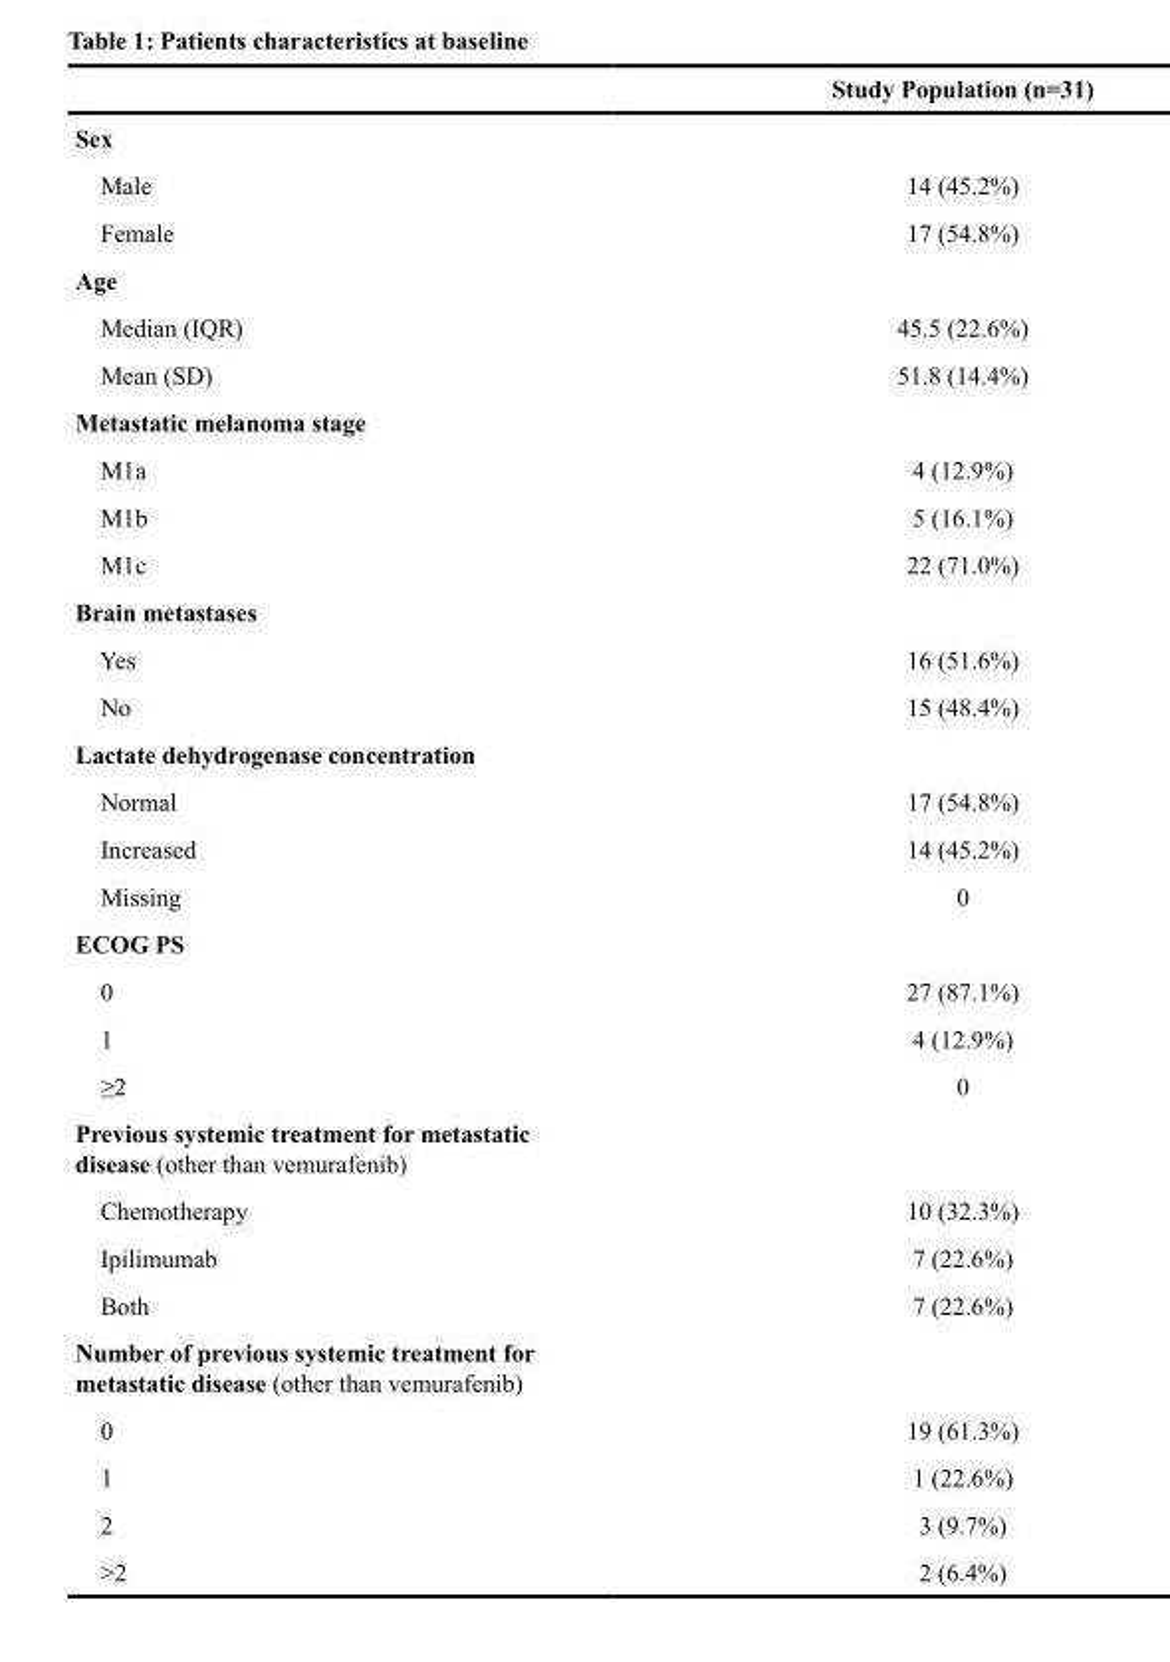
<table><thead><tr><td></td><td>Study Population (n=31)</td></tr></thead><tbody><tr><td colspan="2">Sex</td></tr><tr><td>Male</td><td>14 (45.2%)</td></tr><tr><td>Female</td><td>17 (54.8%)</td></tr><tr><td colspan="2">Age</td></tr><tr><td>Median (IQR)</td><td>45.5 (22.6%)</td></tr><tr><td>Mean (SD)</td><td>51.8 (14.4%)</td></tr><tr><td colspan="2">Metastatic melanoma stage</td></tr><tr><td>M1a</td><td>4 (12.9%)</td></tr><tr><td>M1b</td><td>5 (16.1%)</td></tr><tr><td>M1c</td><td>22 (71.0%)</td></tr><tr><td colspan="2">Brain metastases</td></tr><tr><td>Yes</td><td>16 (51.6%)</td></tr><tr><td>No</td><td>15 (48.4%)</td></tr><tr><td colspan="2">Lactate dehydrogenase concentration</td></tr><tr><td>Normal</td><td>17 (54.8%)</td></tr><tr><td>Increased</td><td>14 (45.2%)</td></tr><tr><td>Missing</td><td>0</td></tr><tr><td colspan="2">ECOG PS</td></tr><tr><td>0</td><td>27 (87.1%)</td></tr><tr><td>1</td><td>4 (12.9%)</td></tr><tr><td>≥2</td><td>0</td></tr><tr><td colspan="2">Previous systemic treatment for metastatic disease (other than vemurafenib)</td></tr><tr><td>Chemotherapy</td><td>10 (32.3%)</td></tr><tr><td>Ipilimumab</td><td>7 (22.6%)</td></tr><tr><td>Both</td><td>7 (22.6%)</td></tr><tr><td colspan="2">Number of previous systemic treatment for metastatic disease (other than vemurafenib)</td></tr><tr><td>0</td><td>19 (61.3%)</td></tr><tr><td>1</td><td>1 (22.6%)</td></tr><tr><td>2</td><td>3 (9.7%)</td></tr><tr><td>&gt;2</td><td>2 (6.4%)</td></tr></tbody></table>